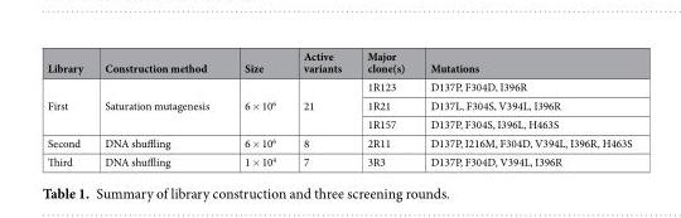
<table><thead><tr><td>Library</td><td>Construction method</td><td>Size</td><td>Active variants</td><td>Major clone(s)</td><td>Mutations</td></tr></thead><tbody><tr><td rowspan="3">First</td><td rowspan="3">Saturation mutagenesis</td><td rowspan="3">6 × 10<sup>6</sup></td><td rowspan="3">21</td><td>1R123</td><td>D137P, F304D, I396R</td></tr><tr><td>1R21</td><td>D137L, F304S, V394L, I396R</td></tr><tr><td>1R157</td><td>D137P, F304S, I396L, H463S</td></tr><tr><td>Second</td><td>DNA shuffling</td><td>6 × 10<sup>6</sup></td><td>8</td><td>2R11</td><td>D137P, I216M, F304D, V394L, I396R, H463S</td></tr><tr><td>Third</td><td>DNA shuffling</td><td>1 × 10<sup>4</sup></td><td>7</td><td>3R3</td><td>D137P, F304D, V394L, I396R</td></tr></tbody></table>